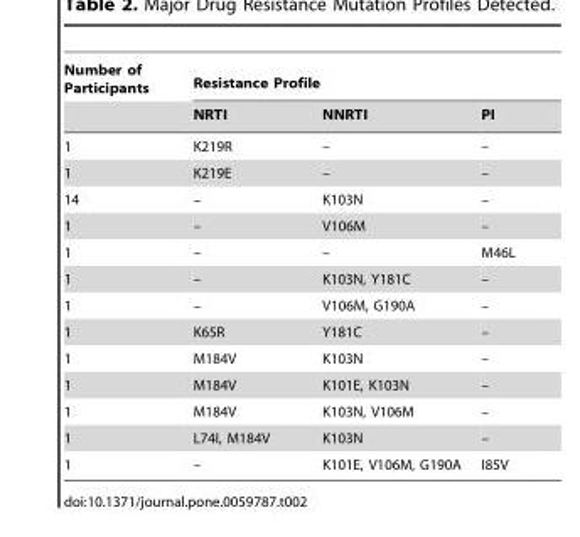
<table><thead><tr><td rowspan="2">Number of Participants</td><td colspan="3">Resistance Profile</td></tr><tr><td>NRTI</td><td>NNRTI</td><td>PI</td></tr></thead><tbody><tr><td>1</td><td>K219R</td><td>–</td><td>–</td></tr><tr><td>1</td><td>K219E</td><td>–</td><td>–</td></tr><tr><td>14</td><td>–</td><td>K103N</td><td>–</td></tr><tr><td>1</td><td>–</td><td>V106M</td><td>–</td></tr><tr><td>1</td><td>–</td><td>–</td><td>M46L</td></tr><tr><td>1</td><td>–</td><td>K103N, Y181C</td><td>–</td></tr><tr><td>1</td><td>–</td><td>V106M, G190A</td><td>–</td></tr><tr><td>1</td><td>K65R</td><td>Y181C</td><td>–</td></tr><tr><td>1</td><td>M184V</td><td>K103N</td><td>–</td></tr><tr><td>1</td><td>M184V</td><td>K101E, K103N</td><td>–</td></tr><tr><td>1</td><td>M184V</td><td>K103N, V106M</td><td>–</td></tr><tr><td>1</td><td>L74I, M184V</td><td>K103N</td><td>–</td></tr><tr><td>1</td><td>–</td><td>K101E, V106M, G190A</td><td>I85V</td></tr></tbody></table>